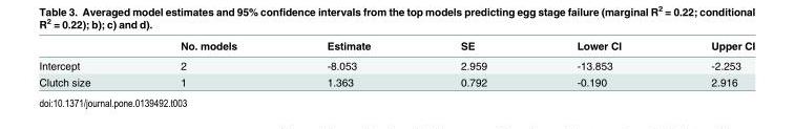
<table><thead><tr><td></td><td>No. models</td><td>Estimate</td><td>SE</td><td>Lower CI</td><td>Upper CI</td></tr></thead><tbody><tr><td>Intercept</td><td>2</td><td>-8.053</td><td>2.959</td><td>-13.853</td><td>-2.253</td></tr><tr><td>Clutch size</td><td>1</td><td>1.363</td><td>0.792</td><td>-0.190</td><td>2.916</td></tr></tbody></table>